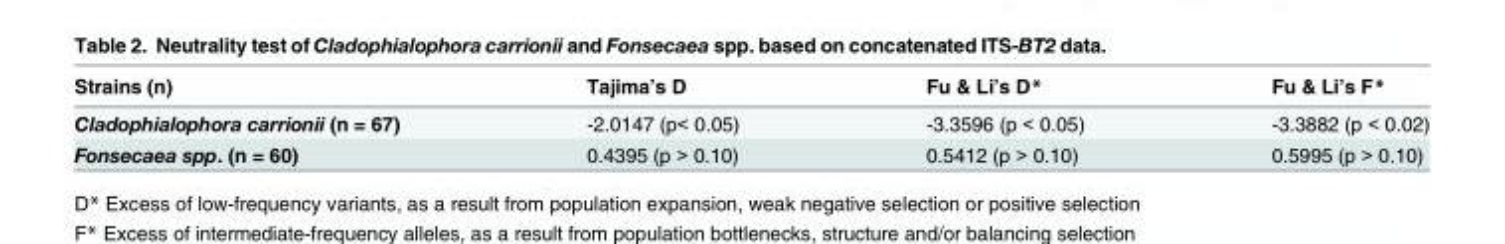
<table><thead><tr><td>Strains (n)</td><td>Tajima’s D</td><td>Fu &amp; Li’s D*</td><td>Fu &amp; Li’s F*</td></tr></thead><tbody><tr><td>Cladophialophora carrionii (n = 67)</td><td>-2.0147 (p&lt; 0.05)</td><td>-3.3596 (p &lt; 0.05)</td><td>-3.3882 (p &lt; 0.02)</td></tr><tr><td>Fonsecaea spp. (n = 60)</td><td>0.4395 (p &gt; 0.10)</td><td>0.5412 (p &gt; 0.10)</td><td>0.5995 (p &gt; 0.10)</td></tr></tbody></table>